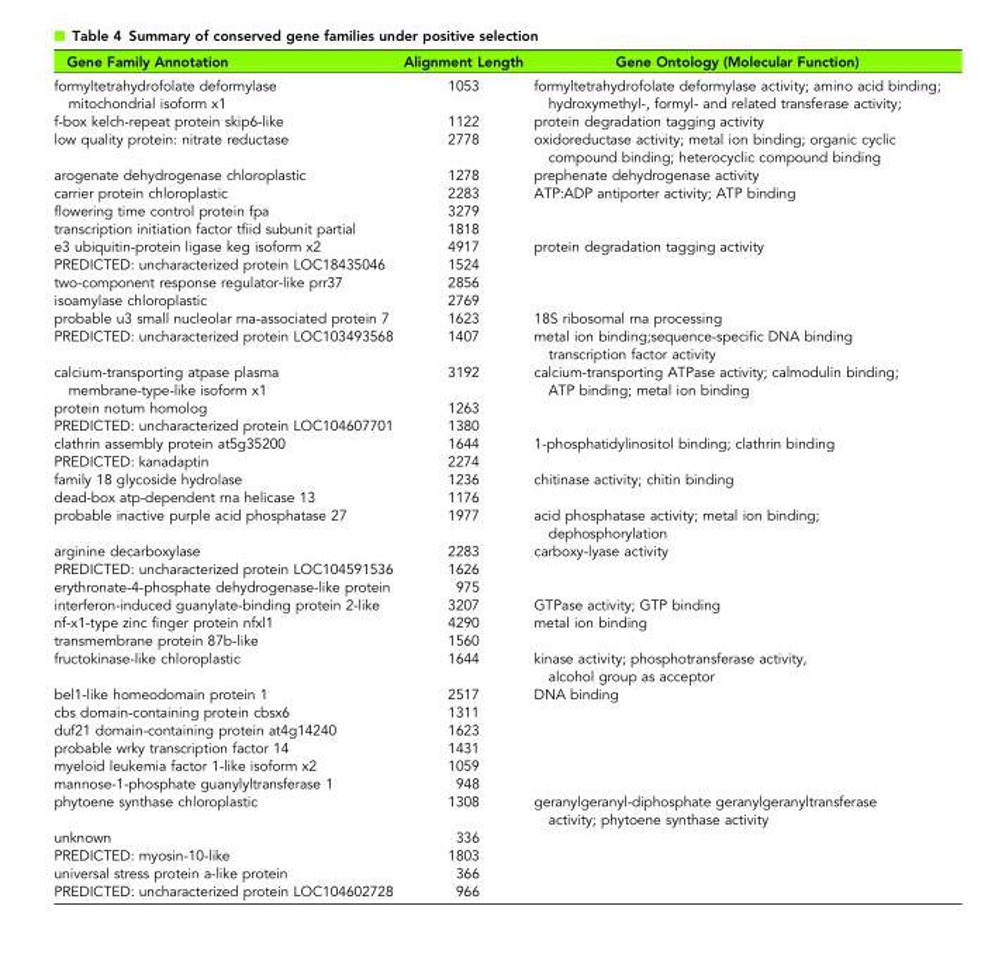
<table><thead><tr><td>Gene Family Annotation</td><td>Alignment Length</td><td>Gene Ontology (Molecular Function)</td></tr></thead><tbody><tr><td>formyltetrahydrofolate deformylase mitochondrial isoform x1</td><td>1053</td><td>formyltetrahydrofolate deformylase activity; amino acid binding; hydroxymethyl-, formyl- and related transferase activity;</td></tr><tr><td>f-box kelch-repeat protein skip6-like</td><td>1122</td><td>protein degradation tagging activity</td></tr><tr><td>low quality protein: nitrate reductase</td><td>2778</td><td>oxidoreductase activity; metal ion binding; organic cyclic compound binding; heterocyclic compound binding</td></tr><tr><td>arogenate dehydrogenase chloroplastic</td><td>1278</td><td>prephenate dehydrogenase activity</td></tr><tr><td>carrier protein chloroplastic</td><td>2283</td><td>ATP:ADP antiporter activity; ATP binding</td></tr><tr><td>flowering time control protein fpa</td><td>3279</td><td></td></tr><tr><td>transcription initiation factor tfiid subunit partial</td><td>1818</td><td></td></tr><tr><td>e3 ubiquitin-protein ligase keg isoform x2</td><td>4917</td><td>protein degradation tagging activity</td></tr><tr><td>PREDICTED: uncharacterized protein LOC18435046</td><td>1524</td><td></td></tr><tr><td>two-component response regulator-like prr37</td><td>2856</td><td></td></tr><tr><td>isoamylase chloroplastic</td><td>2769</td><td></td></tr><tr><td>probable u3 small nucleolar rna-associated protein 7</td><td>1623</td><td>18S ribosomal rna processing</td></tr><tr><td>PREDICTED: uncharacterized protein LOC103493568</td><td>1407</td><td>metal ion binding;sequence-specific DNA binding transcription factor activity</td></tr><tr><td>calcium-transporting atpase plasma membrane-type-like isoform x1</td><td>3192</td><td>calcium-transporting ATPase activity; calmodulin binding; ATP binding; metal ion binding</td></tr><tr><td>protein notum homolog</td><td>1263</td><td></td></tr><tr><td>PREDICTED: uncharacterized protein LOC104607701</td><td>1380</td><td></td></tr><tr><td>clathrin assembly protein at5g35200</td><td>1644</td><td>1-phosphatidylinositol binding; clathrin binding</td></tr><tr><td>PREDICTED: kanadaptin</td><td>2274</td><td></td></tr><tr><td>family 18 glycoside hydrolase</td><td>1236</td><td>chitinase activity; chitin binding</td></tr><tr><td>dead-box atp-dependent rna helicase 13</td><td>1176</td><td></td></tr><tr><td>probable inactive purple acid phosphatase 27</td><td>1977</td><td>acid phosphatase activity; metal ion binding; dephosphorylation</td></tr><tr><td>arginine decarboxylase</td><td>2283</td><td>carboxy-lyase activity</td></tr><tr><td>PREDICTED: uncharacterized protein LOC104591536</td><td>1626</td><td></td></tr><tr><td>erythronate-4-phosphate dehydrogenase-like protein</td><td>975</td><td></td></tr><tr><td>interferon-induced guanylate-binding protein 2-like</td><td>3207</td><td>GTPase activity; GTP binding</td></tr><tr><td>nf-x1-type zinc finger protein nfxl1</td><td>4290</td><td>metal ion binding</td></tr><tr><td>transmembrane protein 87b-like</td><td>1560</td><td></td></tr><tr><td>fructokinase-like chloroplastic</td><td>1644</td><td>kinase activity; phosphotransferase activity, alcohol group as acceptor</td></tr><tr><td>bel1-like homeodomain protein 1</td><td>2517</td><td>DNA binding</td></tr><tr><td>cbs domain-containing protein cbsx6</td><td>1311</td><td></td></tr><tr><td>duf21 domain-containing protein at4g14240</td><td>1623</td><td></td></tr><tr><td>probable wrky transcription factor 14</td><td>1431</td><td></td></tr><tr><td>myeloid leukemia factor 1-like isoform x2</td><td>1059</td><td></td></tr><tr><td>mannose-1-phosphate guanylyltransferase 1</td><td>948</td><td></td></tr><tr><td>phytoene synthase chloroplastic</td><td>1308</td><td>geranylgeranyl-diphosphate geranylgeranyltransferase activity; phytoene synthase activity</td></tr><tr><td>unknown</td><td>336</td><td></td></tr><tr><td>PREDICTED: myosin-10-like</td><td>1803</td><td></td></tr><tr><td>universal stress protein a-like protein</td><td>366</td><td></td></tr><tr><td>PREDICTED: uncharacterized protein LOC104602728</td><td>966</td><td></td></tr></tbody></table>